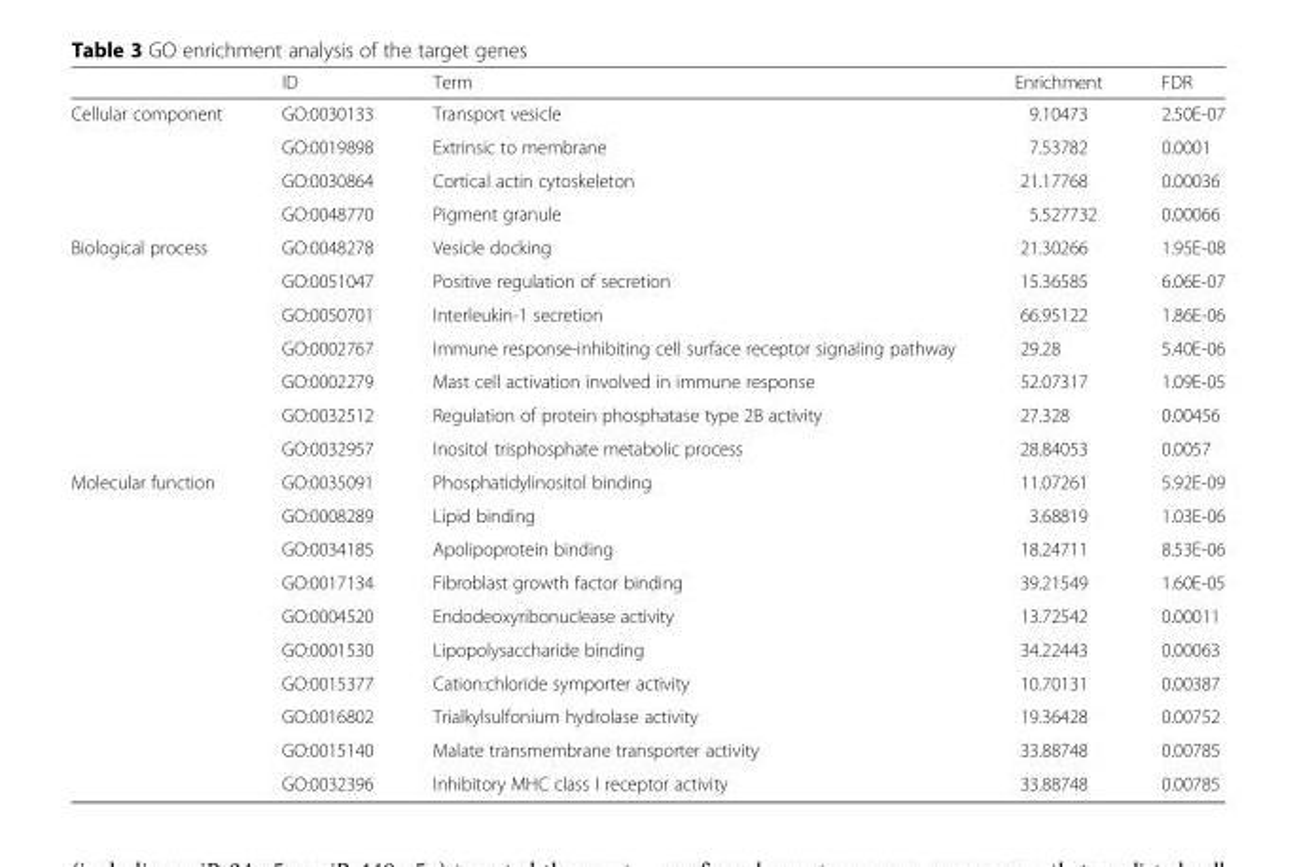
<table><thead><tr><td></td><td>ID</td><td>Term</td><td>Enrichment</td><td>FDR</td></tr></thead><tbody><tr><td rowspan="4">Cellular component</td><td>GO:0030133</td><td>Transport vesicle</td><td>9.10473</td><td>2.50E-07</td></tr><tr><td>GO:0019898</td><td>Extrinsic to membrane</td><td>7.53782</td><td>0.0001</td></tr><tr><td>GO:0030864</td><td>Cortical actin cytoskeleton</td><td>21.17768</td><td>0.00036</td></tr><tr><td>GO:0048770</td><td>Pigment granule</td><td>5.527732</td><td>0.00066</td></tr><tr><td rowspan="7">Biological process</td><td>GO:0048278</td><td>Vesicle docking</td><td>21.30266</td><td>1.95E-08</td></tr><tr><td>GO:0051047</td><td>Positive regulation of secretion</td><td>15.36585</td><td>6.06E-07</td></tr><tr><td>GO:0050701</td><td>Interleukin-1 secretion</td><td>66.95122</td><td>1.86E-06</td></tr><tr><td>GO:0002767</td><td>Immune response-inhibiting cell surface receptor signaling pathway</td><td>29.28</td><td>5.40E-06</td></tr><tr><td>GO:0002279</td><td>Mast cell activation involved in immune response</td><td>52.07317</td><td>1.09E-05</td></tr><tr><td>GO:0032512</td><td>Regulation of protein phosphatase type 2B activity</td><td>27.328</td><td>0.00456</td></tr><tr><td>GO:0032957</td><td>Inositol trisphosphate metabolic process</td><td>28.84053</td><td>0.0057</td></tr><tr><td rowspan="10">Molecular function</td><td>GO:0035091</td><td>Phosphatidylinositol binding</td><td>11.07261</td><td>5.92E-09</td></tr><tr><td>GO:0008289</td><td>Lipid binding</td><td>3.68819</td><td>1.03E-06</td></tr><tr><td>GO:0034185</td><td>Apolipoprotein binding</td><td>18.24711</td><td>8.53E-06</td></tr><tr><td>GO:0017134</td><td>Fibroblast growth factor binding</td><td>39.21549</td><td>1.60E-05</td></tr><tr><td>GO:0004520</td><td>Endodeoxyribonuclease activity</td><td>13.72542</td><td>0.00011</td></tr><tr><td>GO:0001530</td><td>Lipopolysaccharide binding</td><td>34.22443</td><td>0.00063</td></tr><tr><td>GO:0015377</td><td>Cation:chloride symporter activity</td><td>10.70131</td><td>0.00387</td></tr><tr><td>GO:0016802</td><td>Trialkylsulfonium hydrolase activity</td><td>19.36428</td><td>0.00752</td></tr><tr><td>GO:0015140</td><td>Malate transmembrane transporter activity</td><td>33.88748</td><td>0.00785</td></tr><tr><td>GO:0032396</td><td>Inhibitory MHC class I receptor activity</td><td>33.88748</td><td>0.00785</td></tr></tbody></table>